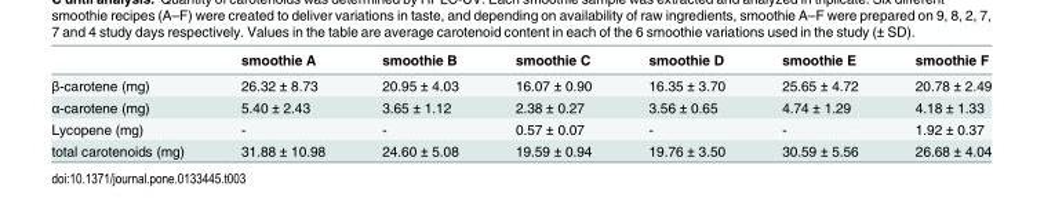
<table><thead><tr><td></td><td>smoothie A</td><td>smoothie B</td><td>smoothie C</td><td>smoothie D</td><td>smoothie E</td><td>smoothie F</td></tr></thead><tbody><tr><td>β-carotene (mg)</td><td>26.32 ± 8.73</td><td>20.95 ± 4.03</td><td>16.07 ± 0.90</td><td>16.35 ± 3.70</td><td>25.65 ± 4.72</td><td>20.78 ± 2.49</td></tr><tr><td>α-carotene (mg)</td><td>5.40 ± 2.43</td><td>3.65 ± 1.12</td><td>2.38 ± 0.27</td><td>3.56 ± 0.65</td><td>4.74 ± 1.29</td><td>4.18 ± 1.33</td></tr><tr><td>Lycopene (mg)</td><td>-</td><td>-</td><td>0.57 ± 0.07</td><td>-</td><td>-</td><td>1.92 ± 0.37</td></tr><tr><td>total carotenoids (mg)</td><td>31.88 ± 10.98</td><td>24.60 ± 5.08</td><td>19.59 ± 0.94</td><td>19.76 ± 3.50</td><td>30.59 ± 5.56</td><td>26.68 ± 4.04</td></tr></tbody></table>